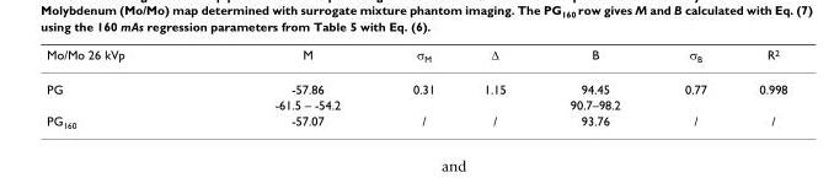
<table><thead><tr><td>Mo/Mo 26 kVp</td><td>M</td><td>σ<sub>M</sub></td><td>∆</td><td>B</td><td>σ<sub>B</sub></td><td>R<sup>2</sup></td></tr></thead><tbody><tr><td rowspan="2">PG</td><td>-57.86</td><td>0.31</td><td>1.15</td><td>94.45</td><td>0.77</td><td>0.998</td></tr><tr><td>-61.5 – -54.2</td><td></td><td></td><td>90.7–98.2</td><td></td><td></td></tr><tr><td>PG<sub>160</sub></td><td>-57.07</td><td>/</td><td>/</td><td>93.76</td><td>/</td><td>/</td></tr></tbody></table>